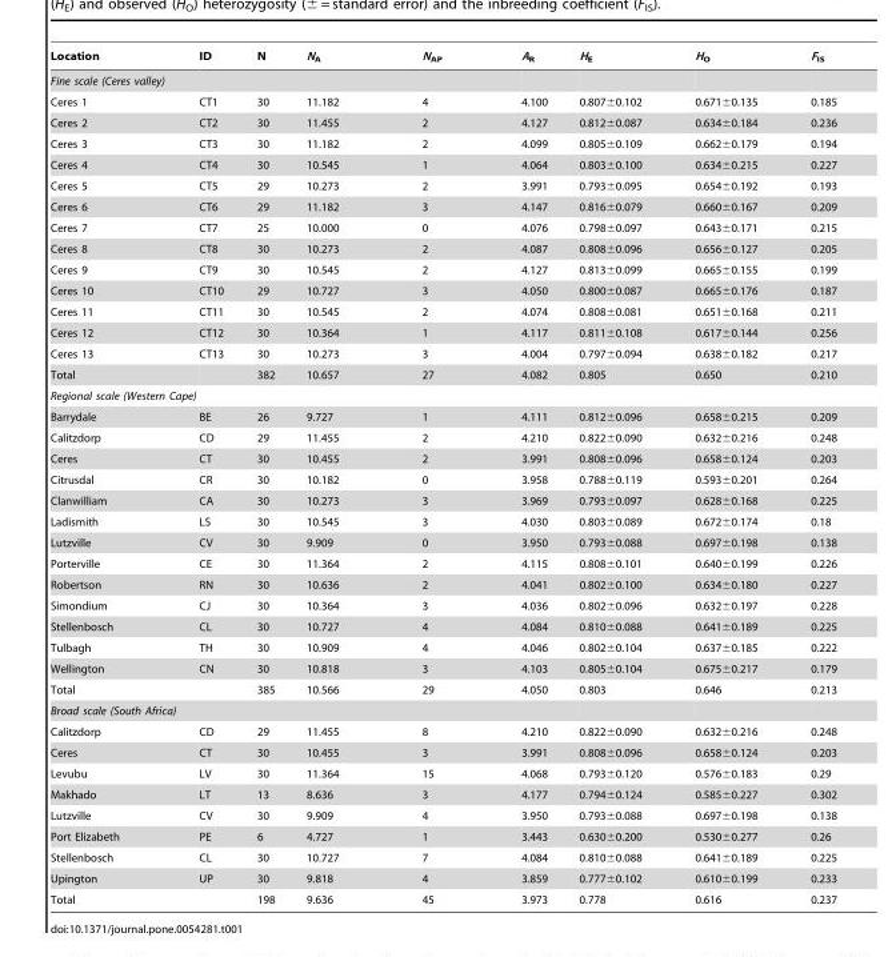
<table><thead><tr><td>Location</td><td>ID</td><td>N</td><td>N<sub>A</sub></td><td>N<sub>AP</sub></td><td>A<sub>R</sub></td><td>H<sub>E</sub></td><td>H<sub>O</sub></td><td>F<sub>IS</sub></td></tr></thead><tbody><tr><td colspan="9">Fine scale (Ceres valley)</td></tr><tr><td>Ceres 1</td><td>CT1</td><td>30</td><td>11.182</td><td>4</td><td>4.100</td><td>0.807±0.102</td><td>0.671±0.135</td><td>0.185</td></tr><tr><td>Ceres 2</td><td>CT2</td><td>30</td><td>11.455</td><td>2</td><td>4.127</td><td>0.812±0.087</td><td>0.634±0.184</td><td>0.236</td></tr><tr><td>Ceres 3</td><td>CT3</td><td>30</td><td>11.182</td><td>2</td><td>4.099</td><td>0.805±0.109</td><td>0.662±0.179</td><td>0.194</td></tr><tr><td>Ceres 4</td><td>CT4</td><td>30</td><td>10.545</td><td>1</td><td>4.064</td><td>0.803±0.100</td><td>0.634±0.215</td><td>0.227</td></tr><tr><td>Ceres 5</td><td>CT5</td><td>29</td><td>10.273</td><td>2</td><td>3.991</td><td>0.793±0.095</td><td>0.654±0.192</td><td>0.193</td></tr><tr><td>Ceres 6</td><td>CT6</td><td>29</td><td>11.182</td><td>3</td><td>4.147</td><td>0.816±0.079</td><td>0.660±0.167</td><td>0.209</td></tr><tr><td>Ceres 7</td><td>CT7</td><td>25</td><td>10.000</td><td>0</td><td>4.076</td><td>0.798±0.097</td><td>0.643±0.171</td><td>0.215</td></tr><tr><td>Ceres 8</td><td>CT8</td><td>30</td><td>10.273</td><td>2</td><td>4.087</td><td>0.808±0.096</td><td>0.656±0.127</td><td>0.205</td></tr><tr><td>Ceres 9</td><td>CT9</td><td>30</td><td>10.545</td><td>2</td><td>4.127</td><td>0.813±0.099</td><td>0.665±0.155</td><td>0.199</td></tr><tr><td>Ceres 10</td><td>CT10</td><td>29</td><td>10.727</td><td>3</td><td>4.050</td><td>0.800±0.087</td><td>0.665±0.176</td><td>0.187</td></tr><tr><td>Ceres 11</td><td>CT11</td><td>30</td><td>10.545</td><td>2</td><td>4.074</td><td>0.808±0.081</td><td>0.651±0.168</td><td>0.211</td></tr><tr><td>Ceres 12</td><td>CT12</td><td>30</td><td>10.364</td><td>1</td><td>4.117</td><td>0.811±0.108</td><td>0.617±0.144</td><td>0.256</td></tr><tr><td>Ceres 13</td><td>CT13</td><td>30</td><td>10.273</td><td>3</td><td>4.004</td><td>0.797±0.094</td><td>0.638±0.182</td><td>0.217</td></tr><tr><td>Total</td><td></td><td>382</td><td>10.657</td><td>27</td><td>4.082</td><td>0.805</td><td>0.650</td><td>0.210</td></tr><tr><td colspan="9">Regional scale (Western Cape)</td></tr><tr><td>Barrydale</td><td>BE</td><td>26</td><td>9.727</td><td>1</td><td>4.111</td><td>0.812±0.096</td><td>0.658±0.215</td><td>0.209</td></tr><tr><td>Calitzdorp</td><td>CD</td><td>29</td><td>11.455</td><td>2</td><td>4.210</td><td>0.822±0.090</td><td>0.632±0.216</td><td>0.248</td></tr><tr><td>Ceres</td><td>CT</td><td>30</td><td>10.455</td><td>2</td><td>3.991</td><td>0.808±0.096</td><td>0.658±0.124</td><td>0.203</td></tr><tr><td>Citrusdal</td><td>CR</td><td>30</td><td>10.182</td><td>0</td><td>3.958</td><td>0.788±0.119</td><td>0.593±0.201</td><td>0.264</td></tr><tr><td>Clanwilliam</td><td>CA</td><td>30</td><td>10.273</td><td>3</td><td>3.969</td><td>0.793±0.097</td><td>0.628±0.168</td><td>0.225</td></tr><tr><td>Ladismith</td><td>LS</td><td>30</td><td>10.545</td><td>3</td><td>4.030</td><td>0.803±0.089</td><td>0.672±0.174</td><td>0.18</td></tr><tr><td>Lutzville</td><td>CV</td><td>30</td><td>9.909</td><td>0</td><td>3.950</td><td>0.793±0.088</td><td>0.697±0.198</td><td>0.138</td></tr><tr><td>Porterville</td><td>CE</td><td>30</td><td>11.364</td><td>2</td><td>4.115</td><td>0.808±0.101</td><td>0.640±0.199</td><td>0.226</td></tr><tr><td>Robertson</td><td>RN</td><td>30</td><td>10.636</td><td>2</td><td>4.041</td><td>0.802±0.100</td><td>0.634±0.180</td><td>0.227</td></tr><tr><td>Simondium</td><td>CJ</td><td>30</td><td>10.364</td><td>3</td><td>4.036</td><td>0.802±0.096</td><td>0.632±0.197</td><td>0.228</td></tr><tr><td>Stellenbosch</td><td>CL</td><td>30</td><td>10.727</td><td>4</td><td>4.084</td><td>0.810±0.088</td><td>0.641±0.189</td><td>0.225</td></tr><tr><td>Tulbagh</td><td>TH</td><td>30</td><td>10.909</td><td>4</td><td>4.046</td><td>0.802±0.104</td><td>0.637±0.185</td><td>0.222</td></tr><tr><td>Wellington</td><td>CN</td><td>30</td><td>10.818</td><td>3</td><td>4.103</td><td>0.805±0.104</td><td>0.675±0.217</td><td>0.179</td></tr><tr><td>Total</td><td></td><td>385</td><td>10.566</td><td>29</td><td>4.050</td><td>0.803</td><td>0.646</td><td>0.213</td></tr><tr><td colspan="9">Broad scale (South Africa)</td></tr><tr><td>Calitzdorp</td><td>CD</td><td>29</td><td>11.455</td><td>8</td><td>4.210</td><td>0.822±0.090</td><td>0.632±0.216</td><td>0.248</td></tr><tr><td>Ceres</td><td>CT</td><td>30</td><td>10.455</td><td>3</td><td>3.991</td><td>0.808±0.096</td><td>0.658±0.124</td><td>0.203</td></tr><tr><td>Levubu</td><td>LV</td><td>30</td><td>11.364</td><td>15</td><td>4.068</td><td>0.793±0.120</td><td>0.576±0.183</td><td>0.29</td></tr><tr><td>Makhado</td><td>LT</td><td>13</td><td>8.636</td><td>3</td><td>4.177</td><td>0.794±0.124</td><td>0.585±0.227</td><td>0.302</td></tr><tr><td>Lutzville</td><td>CV</td><td>30</td><td>9.909</td><td>4</td><td>3.950</td><td>0.793±0.088</td><td>0.697±0.198</td><td>0.138</td></tr><tr><td>Port Elizabeth</td><td>PE</td><td>6</td><td>4.727</td><td>1</td><td>3.443</td><td>0.630±0.200</td><td>0.530±0.277</td><td>0.26</td></tr><tr><td>Stellenbosch</td><td>CL</td><td>30</td><td>10.727</td><td>7</td><td>4.084</td><td>0.810±0.088</td><td>0.641±0.189</td><td>0.225</td></tr><tr><td>Upington</td><td>UP</td><td>30</td><td>9.818</td><td>4</td><td>3.859</td><td>0.777±0.102</td><td>0.610±0.199</td><td>0.233</td></tr><tr><td>Total</td><td></td><td>198</td><td>9.636</td><td>45</td><td>3.973</td><td>0.778</td><td>0.616</td><td>0.237</td></tr></tbody></table>